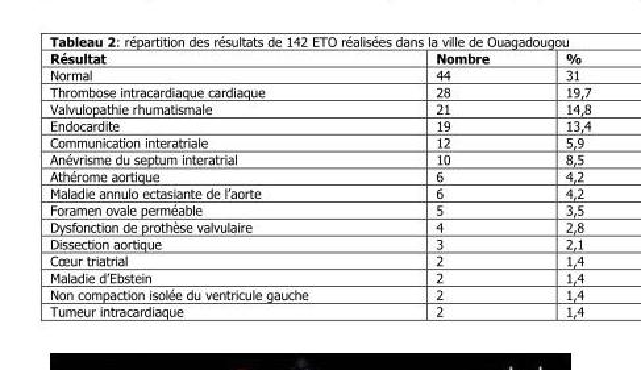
<table><thead><tr><td>Résultat</td><td>Nombre</td><td>%</td></tr></thead><tbody><tr><td>Normal</td><td>44</td><td>31</td></tr><tr><td>Thrombose intracardiaque cardiaque</td><td>28</td><td>19,7</td></tr><tr><td>Valvulopathie rhumatismale</td><td>21</td><td>14,8</td></tr><tr><td>Endocardite</td><td>19</td><td>13,4</td></tr><tr><td>Communication interatriale</td><td>12</td><td>5,9</td></tr><tr><td>Anévrisme du septum interatrial</td><td>10</td><td>8,5</td></tr><tr><td>Athérome aortique</td><td>6</td><td>4,2</td></tr><tr><td>Maladie annulo ectasiante de l’aorte</td><td>6</td><td>4,2</td></tr><tr><td>Foramen ovale perméable</td><td>5</td><td>3,5</td></tr><tr><td>Dysfonction de prothèse valvulaire</td><td>4</td><td>2,8</td></tr><tr><td>Dissection aortique</td><td>3</td><td>2,1</td></tr><tr><td>Cœur triatrial</td><td>2</td><td>1,4</td></tr><tr><td>Maladie d’Ebstein</td><td>2</td><td>1,4</td></tr><tr><td>Non compaction isolée du ventricule gauche</td><td>2</td><td>1,4</td></tr><tr><td>Tumeur intracardiaque</td><td>2</td><td>1,4</td></tr></tbody></table>